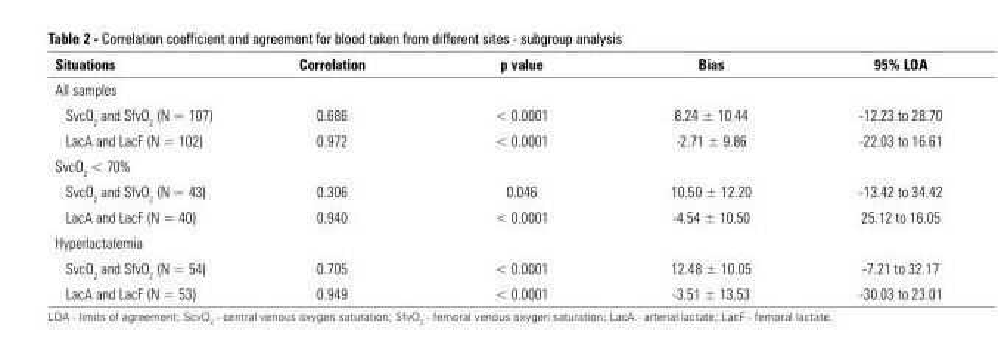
<table><thead><tr><td>Situations</td><td>Correlation</td><td>p value</td><td>Bias</td><td>95% LOA</td></tr></thead><tbody><tr><td colspan="5">All samples</td></tr><tr><td>SvcO<sub>2</sub> and SfvO<sub>2</sub> (N = 107)</td><td>0.686</td><td>&lt; 0.0001</td><td>8.24 ± 10.44</td><td>-12.23 to 28.70</td></tr><tr><td>LacA and LacF (N = 102)</td><td>0.972</td><td>&lt; 0.0001</td><td>-2.71 ± 9.86</td><td>-22.03 to 16.61</td></tr><tr><td colspan="5">SvcO<sub>2</sub> &lt; 70%</td></tr><tr><td>SvcO<sub>2</sub> and SfvO<sub>2</sub> (N = 43)</td><td>0.306</td><td>0.046</td><td>10.50 ± 12.20</td><td>-13.42 to 34.42</td></tr><tr><td>LacA and LacF (N = 40)</td><td>0.940</td><td>&lt; 0.0001</td><td>-4.54 ± 10.50</td><td>25.12 to 16.05</td></tr><tr><td colspan="5">Hyperlactatemia</td></tr><tr><td>SvcO<sub>2</sub> and SfvO<sub>2</sub> (N = 54)</td><td>0.705</td><td>&lt; 0.0001</td><td>12.48 ± 10.05</td><td>-7.21 to 32.17</td></tr><tr><td>LacA and LacF (N = 53)</td><td>0.949</td><td>&lt; 0.0001</td><td>-3.51 ± 13.53</td><td>-30.03 to 23.01</td></tr></tbody></table>